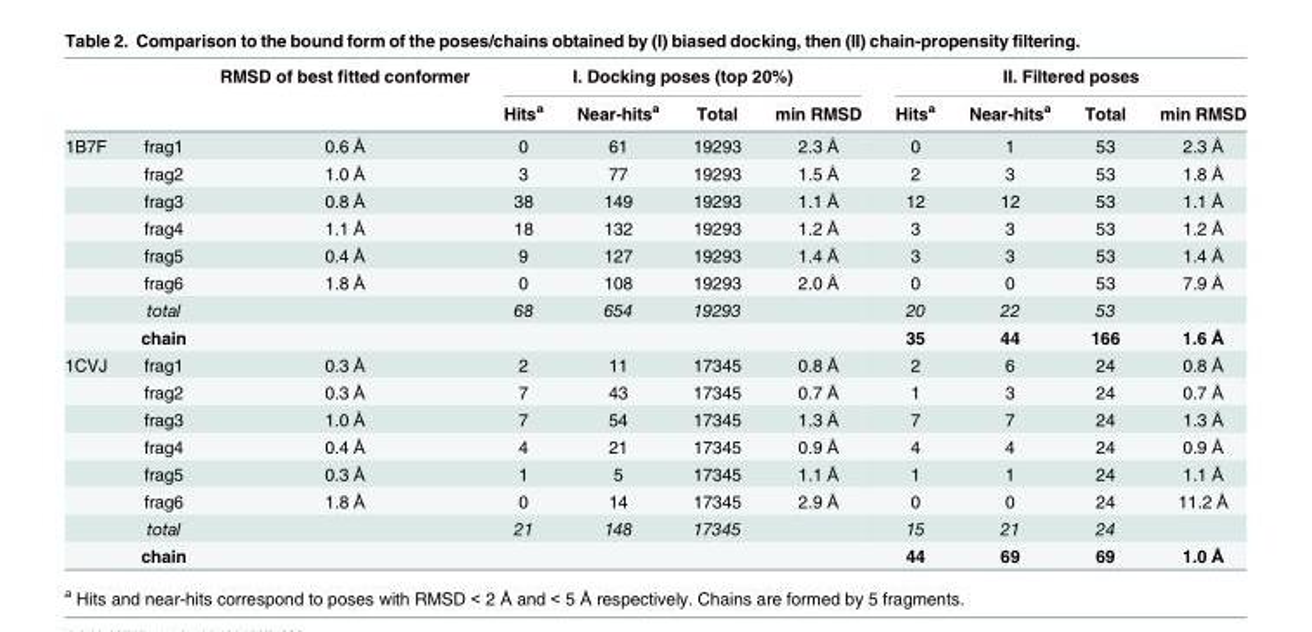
<table><thead><tr><td rowspan="2"></td><td rowspan="2"></td><td rowspan="2">RMSD of best fitted conformer</td><td colspan="4">I. Docking poses (top 20%)</td><td colspan="4">II. Filtered poses</td></tr><tr><td>Hits<sup>a</sup></td><td>Near-hits<sup>a</sup></td><td>Total</td><td>min RMSD</td><td>Hits<sup>a</sup></td><td>Near-hits<sup>a</sup></td><td>Total</td><td>min RMSD</td></tr></thead><tbody><tr><td rowspan="8">1B7F</td><td>frag1</td><td>0.6 Å</td><td>0</td><td>61</td><td>19293</td><td>2.3 Å</td><td>0</td><td>1</td><td>53</td><td>2.3 Å</td></tr><tr><td>frag2</td><td>1.0 Å</td><td>3</td><td>77</td><td>19293</td><td>1.5 Å</td><td>2</td><td>3</td><td>53</td><td>1.8 Å</td></tr><tr><td>frag3</td><td>0.8 Å</td><td>38</td><td>149</td><td>19293</td><td>1.1 Å</td><td>12</td><td>12</td><td>53</td><td>1.1 Å</td></tr><tr><td>frag4</td><td>1.1 Å</td><td>18</td><td>132</td><td>19293</td><td>1.2 Å</td><td>3</td><td>3</td><td>53</td><td>1.2 Å</td></tr><tr><td>frag5</td><td>0.4 Å</td><td>9</td><td>127</td><td>19293</td><td>1.4 Å</td><td>3</td><td>3</td><td>53</td><td>1.4 Å</td></tr><tr><td>frag6</td><td>1.8 Å</td><td>0</td><td>108</td><td>19293</td><td>2.0 Å</td><td>0</td><td>0</td><td>53</td><td>7.9 Å</td></tr><tr><td>total</td><td></td><td>68</td><td>654</td><td>19293</td><td></td><td>20</td><td>22</td><td>53</td><td></td></tr><tr><td>chain</td><td></td><td></td><td></td><td></td><td></td><td>35</td><td>44</td><td>166</td><td>1.6 Å</td></tr><tr><td rowspan="8">1CVJ</td><td>frag1</td><td>0.3 Å</td><td>2</td><td>11</td><td>17345</td><td>0.8 Å</td><td>2</td><td>6</td><td>24</td><td>0.8 Å</td></tr><tr><td>frag2</td><td>0.3 Å</td><td>7</td><td>43</td><td>17345</td><td>0.7 Å</td><td>1</td><td>3</td><td>24</td><td>0.7 Å</td></tr><tr><td>frag3</td><td>1.0 Å</td><td>7</td><td>54</td><td>17345</td><td>1.3 Å</td><td>7</td><td>7</td><td>24</td><td>1.3 Å</td></tr><tr><td>frag4</td><td>0.4 Å</td><td>4</td><td>21</td><td>17345</td><td>0.9 Å</td><td>4</td><td>4</td><td>24</td><td>0.9 Å</td></tr><tr><td>frag5</td><td>0.3 Å</td><td>1</td><td>5</td><td>17345</td><td>1.1 Å</td><td>1</td><td>1</td><td>24</td><td>1.1 Å</td></tr><tr><td>frag6</td><td>1.8 Å</td><td>0</td><td>14</td><td>17345</td><td>2.9 Å</td><td>0</td><td>0</td><td>24</td><td>11.2 Å</td></tr><tr><td>total</td><td></td><td>21</td><td>148</td><td>17345</td><td></td><td>15</td><td>21</td><td>24</td><td></td></tr><tr><td>chain</td><td></td><td></td><td></td><td></td><td></td><td>44</td><td>69</td><td>69</td><td>1.0 Å</td></tr></tbody></table>